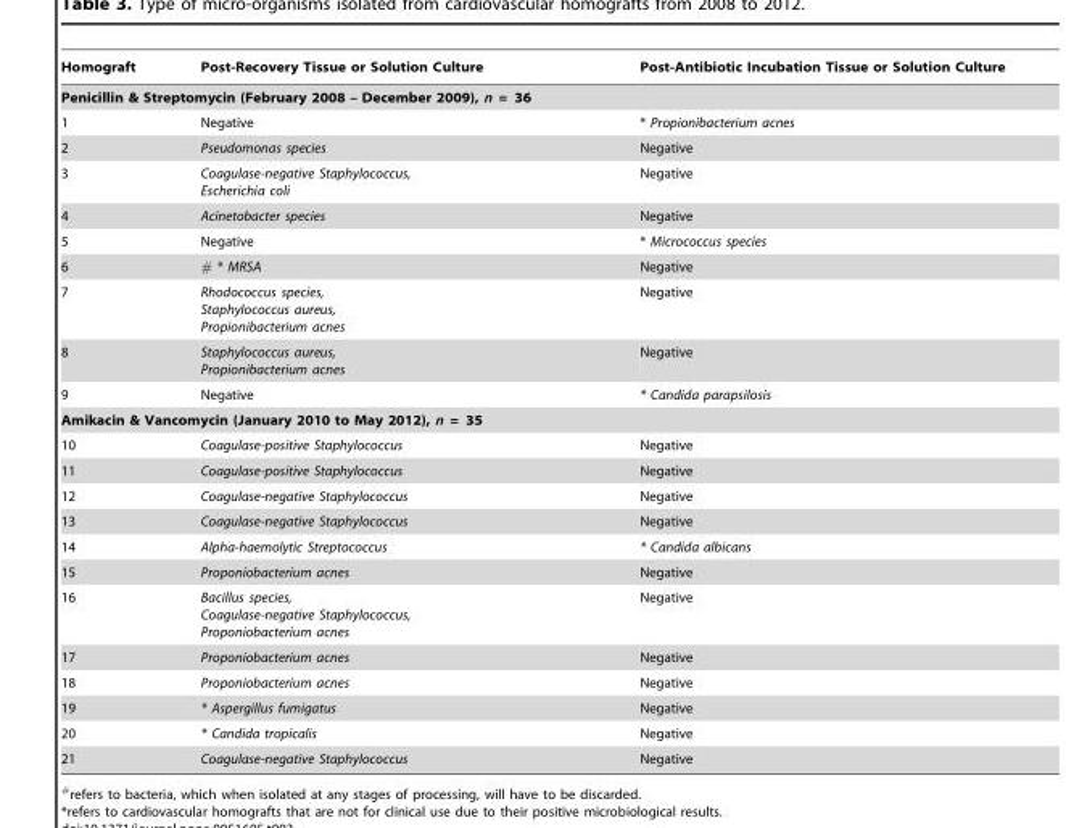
<table><thead><tr><td>Homograft</td><td>Post-Recovery Tissue or Solution Culture</td><td>Post-Antibiotic Incubation Tissue or Solution Culture</td></tr></thead><tbody><tr><td colspan="3">Penicillin &amp; Streptomycin (February 2008 – December 2009), n = 36</td></tr><tr><td>1</td><td>Negative</td><td>* Propionibacterium acnes</td></tr><tr><td>2</td><td>Pseudomonas species</td><td>Negative</td></tr><tr><td>3</td><td>Coagulase-negative Staphylococcus, Escherichia coli</td><td>Negative</td></tr><tr><td>4</td><td>Acinetobacter species</td><td>Negative</td></tr><tr><td>5</td><td>Negative</td><td>* Micrococcus species</td></tr><tr><td>6</td><td># * MRSA</td><td>Negative</td></tr><tr><td>7</td><td>Rhodococcus species, Staphylococcus aureus, Propionibacterium acnes</td><td>Negative</td></tr><tr><td>8</td><td>Staphylococcus aureus, Propionibacterium acnes</td><td>Negative</td></tr><tr><td>9</td><td>Negative</td><td>* Candida parapsilosis</td></tr><tr><td colspan="3">Amikacin &amp; Vancomycin (January 2010 to May 2012), n = 35</td></tr><tr><td>10</td><td>Coagulase-positive Staphylococcus</td><td>Negative</td></tr><tr><td>11</td><td>Coagulase-positive Staphylococcus</td><td>Negative</td></tr><tr><td>12</td><td>Coagulase-negative Staphylococcus</td><td>Negative</td></tr><tr><td>13</td><td>Coagulase-negative Staphylococcus</td><td>Negative</td></tr><tr><td>14</td><td>Alpha-haemolytic Streptococcus</td><td>* Candida albicans</td></tr><tr><td>15</td><td>Proponiobacterium acnes</td><td>Negative</td></tr><tr><td>16</td><td>Bacillus species, Coagulase-negative Staphylococcus, Proponiobacterium acnes</td><td>Negative</td></tr><tr><td>17</td><td>Proponiobacterium acnes</td><td>Negative</td></tr><tr><td>18</td><td>Proponiobacterium acnes</td><td>Negative</td></tr><tr><td>19</td><td>* Aspergillus fumigatus</td><td>Negative</td></tr><tr><td>20</td><td>* Candida tropicalis</td><td>Negative</td></tr><tr><td>21</td><td>Coagulase-negative Staphylococcus</td><td>Negative</td></tr></tbody></table>